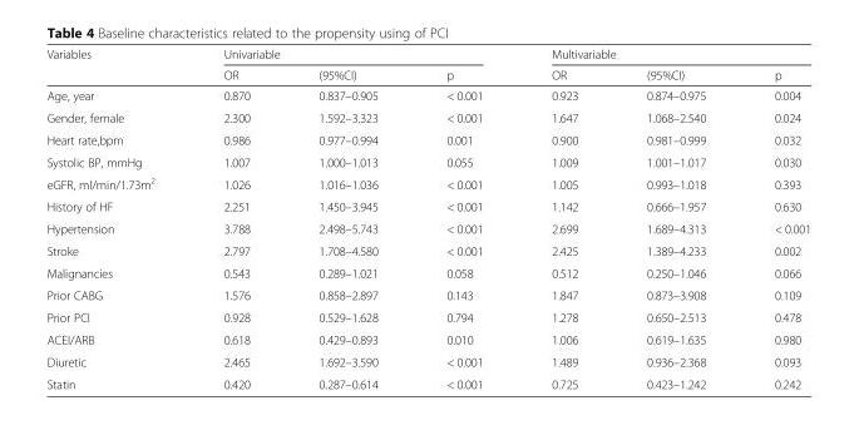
<table><thead><tr><td rowspan="2">Variables</td><td colspan="3">Univariable</td><td colspan="3">Multivariable</td></tr><tr><td>OR</td><td>(95%CI)</td><td>p</td><td>OR</td><td>(95%CI)</td><td>p</td></tr></thead><tbody><tr><td>Age, year</td><td>0.870</td><td>0.837–0.905</td><td>&lt; 0.001</td><td>0.923</td><td>0.874–0.975</td><td>0.004</td></tr><tr><td>Gender, female</td><td>2.300</td><td>1.592–3.323</td><td>&lt; 0.001</td><td>1.647</td><td>1.068–2.540</td><td>0.024</td></tr><tr><td>Heart rate,bpm</td><td>0.986</td><td>0.977–0.994</td><td>0.001</td><td>0.900</td><td>0.981–0.999</td><td>0.032</td></tr><tr><td>Systolic BP, mmHg</td><td>1.007</td><td>1.000–1.013</td><td>0.055</td><td>1.009</td><td>1.001–1.017</td><td>0.030</td></tr><tr><td>eGFR, ml/min/1.73m<sup>2</sup></td><td>1.026</td><td>1.016–1.036</td><td>&lt; 0.001</td><td>1.005</td><td>0.993–1.018</td><td>0.393</td></tr><tr><td>History of HF</td><td>2.251</td><td>1.450–3.945</td><td>&lt; 0.001</td><td>1.142</td><td>0.666–1.957</td><td>0.630</td></tr><tr><td>Hypertension</td><td>3.788</td><td>2.498–5.743</td><td>&lt; 0.001</td><td>2.699</td><td>1.689–4.313</td><td>&lt; 0.001</td></tr><tr><td>Stroke</td><td>2.797</td><td>1.708–4.580</td><td>&lt; 0.001</td><td>2.425</td><td>1.389–4.233</td><td>0.002</td></tr><tr><td>Malignancies</td><td>0.543</td><td>0.289–1.021</td><td>0.058</td><td>0.512</td><td>0.250–1.046</td><td>0.066</td></tr><tr><td>Prior CABG</td><td>1.576</td><td>0.858–2.897</td><td>0.143</td><td>1.847</td><td>0.873–3.908</td><td>0.109</td></tr><tr><td>Prior PCI</td><td>0.928</td><td>0.529–1.628</td><td>0.794</td><td>1.278</td><td>0.650–2.513</td><td>0.478</td></tr><tr><td>ACEI/ARB</td><td>0.618</td><td>0.429–0.893</td><td>0.010</td><td>1.006</td><td>0.619–1.635</td><td>0.980</td></tr><tr><td>Diuretic</td><td>2.465</td><td>1.692–3.590</td><td>&lt; 0.001</td><td>1.489</td><td>0.936–2.368</td><td>0.093</td></tr><tr><td>Statin</td><td>0.420</td><td>0.287–0.614</td><td>&lt; 0.001</td><td>0.725</td><td>0.423–1.242</td><td>0.242</td></tr></tbody></table>